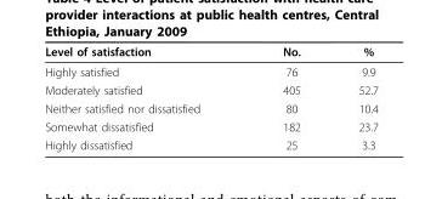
<table><thead><tr><td>Level of satisfaction</td><td>No.</td><td>%</td></tr></thead><tbody><tr><td>Highly satisfied</td><td>76</td><td>9.9</td></tr><tr><td>Moderately satisfied</td><td>405</td><td>52.7</td></tr><tr><td>Neither satisfied nor dissatisfied</td><td>80</td><td>10.4</td></tr><tr><td>Somewhat dissatisfied</td><td>182</td><td>23.7</td></tr><tr><td>Highly dissatisfied</td><td>25</td><td>3.3</td></tr></tbody></table>